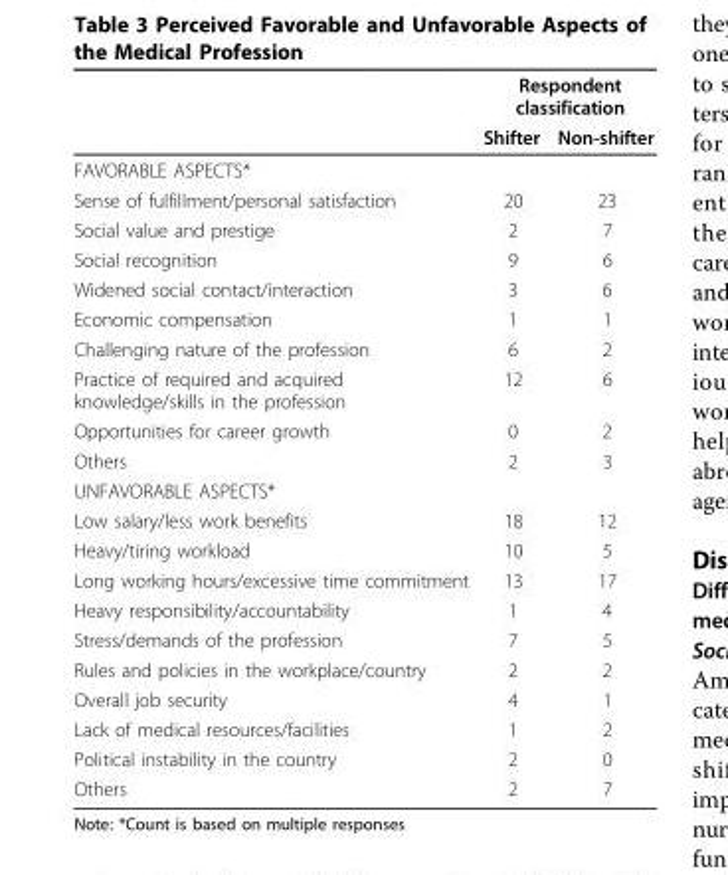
<table><thead><tr><td rowspan="2"></td><td colspan="2">Respondent classification</td></tr><tr><td>Shifter</td><td>Non-shifter</td></tr></thead><tbody><tr><td colspan="3">FAVORABLE ASPECTS*</td></tr><tr><td>Sense of fulfillment/personal satisfaction</td><td>20</td><td>23</td></tr><tr><td>Social value and prestige</td><td>2</td><td>7</td></tr><tr><td>Social recognition</td><td>9</td><td>6</td></tr><tr><td>Widened social contact/interaction</td><td>3</td><td>6</td></tr><tr><td>Economic compensation</td><td>1</td><td>1</td></tr><tr><td>Challenging nature of the profession</td><td>6</td><td>2</td></tr><tr><td>Practice of required and acquired knowledge/skills in the profession</td><td>12</td><td>6</td></tr><tr><td>Opportunities for career growth</td><td>0</td><td>2</td></tr><tr><td>Others</td><td>2</td><td>3</td></tr><tr><td colspan="3">UNFAVORABLE ASPECTS*</td></tr><tr><td>Low salary/less work benefits</td><td>18</td><td>12</td></tr><tr><td>Heavy/tiring workload</td><td>10</td><td>5</td></tr><tr><td>Long working hours/excessive time commitment</td><td>13</td><td>17</td></tr><tr><td>Heavy responsibility/accountability</td><td>1</td><td>4</td></tr><tr><td>Stress/demands of the profession</td><td>7</td><td>5</td></tr><tr><td>Rules and policies in the workplace/country</td><td>2</td><td>2</td></tr><tr><td>Overall job security</td><td>4</td><td>1</td></tr><tr><td>Lack of medical resources/facilities</td><td>1</td><td>2</td></tr><tr><td>Political instability in the country</td><td>2</td><td>0</td></tr><tr><td>Others</td><td>2</td><td>7</td></tr></tbody></table>